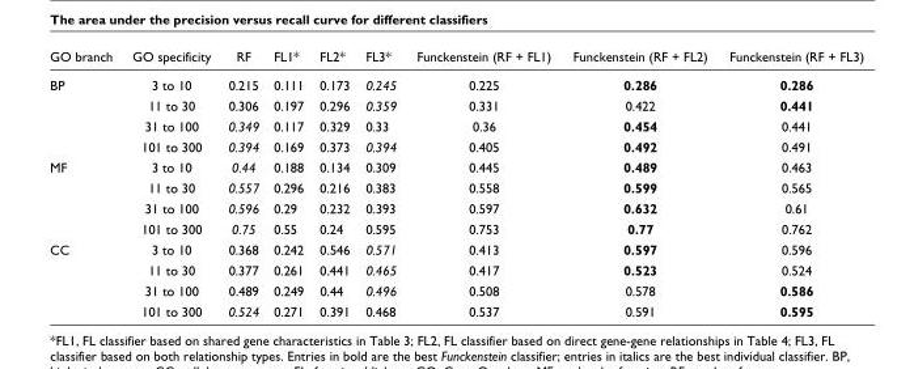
<table><thead><tr><td>GO branch</td><td>GO specificity</td><td>RF</td><td>FL1*</td><td>FL2*</td><td>FL3*</td><td>Funckenstein (RF + FL1)</td><td>Funckenstein (RF + FL2)</td><td>Funckenstein (RF + FL3)</td></tr></thead><tbody><tr><td rowspan="4">BP</td><td>3 to 10</td><td>0.215</td><td>0.111</td><td>0.173</td><td>0.245</td><td>0.225</td><td>0.286</td><td>0.286</td></tr><tr><td>11 to 30</td><td>0.306</td><td>0.197</td><td>0.296</td><td>0.359</td><td>0.331</td><td>0.422</td><td>0.441</td></tr><tr><td>31 to 100</td><td>0.349</td><td>0.117</td><td>0.329</td><td>0.33</td><td>0.36</td><td>0.454</td><td>0.441</td></tr><tr><td>101 to 300</td><td>0.394</td><td>0.169</td><td>0.373</td><td>0.394</td><td>0.405</td><td>0.492</td><td>0.491</td></tr><tr><td rowspan="4">MF</td><td>3 to 10</td><td>0.44</td><td>0.188</td><td>0.134</td><td>0.309</td><td>0.445</td><td>0.489</td><td>0.463</td></tr><tr><td>11 to 30</td><td>0.557</td><td>0.296</td><td>0.216</td><td>0.383</td><td>0.558</td><td>0.599</td><td>0.565</td></tr><tr><td>31 to 100</td><td>0.596</td><td>0.29</td><td>0.232</td><td>0.393</td><td>0.597</td><td>0.632</td><td>0.61</td></tr><tr><td>101 to 300</td><td>0.75</td><td>0.55</td><td>0.24</td><td>0.595</td><td>0.753</td><td>0.77</td><td>0.762</td></tr><tr><td rowspan="4">CC</td><td>3 to 10</td><td>0.368</td><td>0.242</td><td>0.546</td><td>0.571</td><td>0.413</td><td>0.597</td><td>0.596</td></tr><tr><td>11 to 30</td><td>0.377</td><td>0.261</td><td>0.441</td><td>0.465</td><td>0.417</td><td>0.523</td><td>0.524</td></tr><tr><td>31 to 100</td><td>0.489</td><td>0.249</td><td>0.44</td><td>0.496</td><td>0.508</td><td>0.578</td><td>0.586</td></tr><tr><td>101 to 300</td><td>0.524</td><td>0.271</td><td>0.391</td><td>0.468</td><td>0.537</td><td>0.591</td><td>0.595</td></tr></tbody></table>